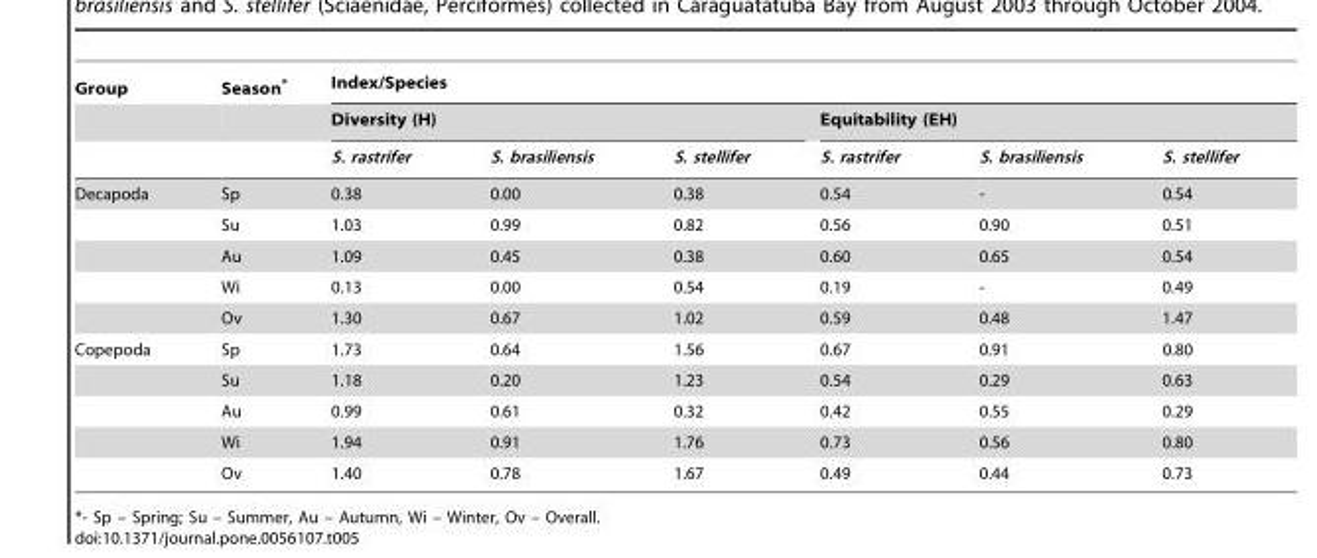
<table><thead><tr><td rowspan="3">Group</td><td rowspan="3">Season*</td><td colspan="6">Index/Species</td></tr><tr><td colspan="3">Diversity (H)</td><td colspan="3">Equitability (EH)</td></tr><tr><td>S. rastrifer</td><td>S. brasiliensis</td><td>S. stellifer</td><td>S. rastrifer</td><td>S. brasiliensis</td><td>S. stellifer</td></tr></thead><tbody><tr><td rowspan="5">Decapoda</td><td>Sp</td><td>0.38</td><td>0.00</td><td>0.38</td><td>0.54</td><td>-</td><td>0.54</td></tr><tr><td>Su</td><td>1.03</td><td>0.99</td><td>0.82</td><td>0.56</td><td>0.90</td><td>0.51</td></tr><tr><td>Au</td><td>1.09</td><td>0.45</td><td>0.38</td><td>0.60</td><td>0.65</td><td>0.54</td></tr><tr><td>Wi</td><td>0.13</td><td>0.00</td><td>0.54</td><td>0.19</td><td>-</td><td>0.49</td></tr><tr><td>Ov</td><td>1.30</td><td>0.67</td><td>1.02</td><td>0.59</td><td>0.48</td><td>1.47</td></tr><tr><td rowspan="5">Copepoda</td><td>Sp</td><td>1.73</td><td>0.64</td><td>1.56</td><td>0.67</td><td>0.91</td><td>0.80</td></tr><tr><td>Su</td><td>1.18</td><td>0.20</td><td>1.23</td><td>0.54</td><td>0.29</td><td>0.63</td></tr><tr><td>Au</td><td>0.99</td><td>0.61</td><td>0.32</td><td>0.42</td><td>0.55</td><td>0.29</td></tr><tr><td>Wi</td><td>1.94</td><td>0.91</td><td>1.76</td><td>0.73</td><td>0.56</td><td>0.80</td></tr><tr><td>Ov</td><td>1.40</td><td>0.78</td><td>1.67</td><td>0.49</td><td>0.44</td><td>0.73</td></tr></tbody></table>